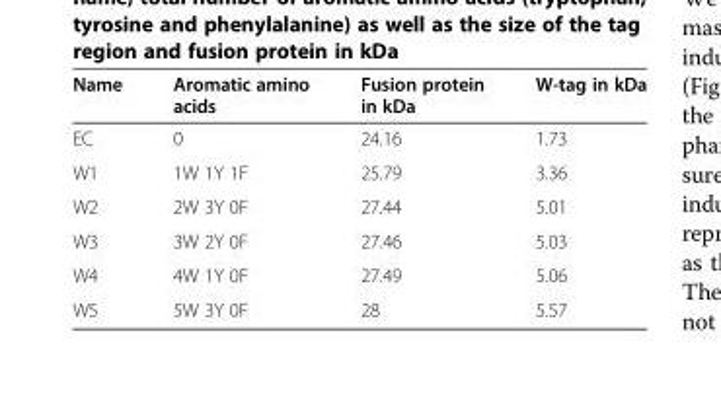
<table><thead><tr><td>Name</td><td>Aromatic amino acids</td><td>Fusion protein in kDa</td><td>W-tag in kDa</td></tr></thead><tbody><tr><td>EC</td><td>0</td><td>24.16</td><td>1.73</td></tr><tr><td>W1</td><td>1W 1Y 1F</td><td>25.79</td><td>3.36</td></tr><tr><td>W2</td><td>2W 3Y 0F</td><td>27.44</td><td>5.01</td></tr><tr><td>W3</td><td>3W 2Y 0F</td><td>27.46</td><td>5.03</td></tr><tr><td>W4</td><td>4W 1Y 0F</td><td>27.49</td><td>5.06</td></tr><tr><td>W5</td><td>5W 3Y 0F</td><td>28</td><td>5.57</td></tr></tbody></table>